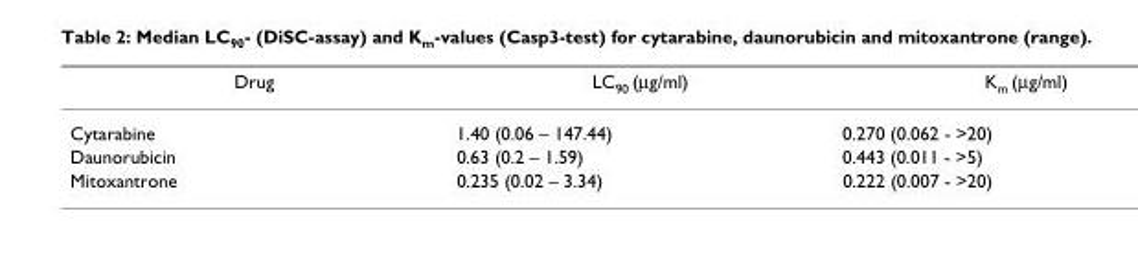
<table><thead><tr><td>Drug</td><td>LC90 (µg/ml)</td><td>Km (µg/ml)</td></tr></thead><tbody><tr><td>Cytarabine</td><td>1.40 (0.06 – 147.44)</td><td>0.270 (0.062 - &gt;20)</td></tr><tr><td>Daunorubicin</td><td>0.63 (0.2 – 1.59)</td><td>0.443 (0.011 - &gt;5)</td></tr><tr><td>Mitoxantrone</td><td>0.235 (0.02 – 3.34)</td><td>0.222 (0.007 - &gt;20)</td></tr></tbody></table>